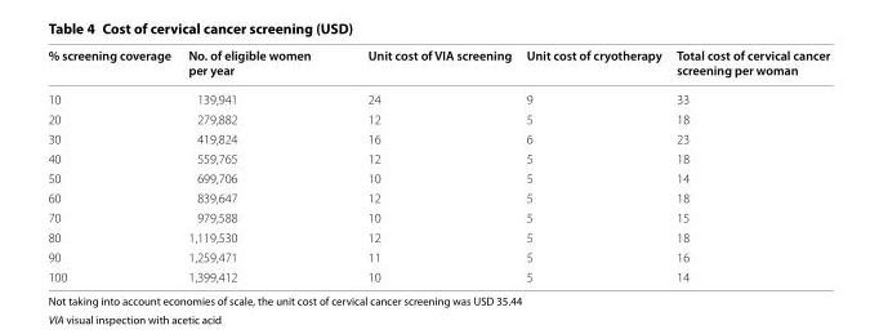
<table><thead><tr><td>% screening coverage</td><td>No. of eligible women per year</td><td>Unit cost of VIA screening</td><td>Unit cost of cryotherapy</td><td>Total cost of cervical cancer screening per woman</td></tr></thead><tbody><tr><td>10</td><td>139,941</td><td>24</td><td>9</td><td>33</td></tr><tr><td>20</td><td>279,882</td><td>12</td><td>5</td><td>18</td></tr><tr><td>30</td><td>419,824</td><td>16</td><td>6</td><td>23</td></tr><tr><td>40</td><td>559,765</td><td>12</td><td>5</td><td>18</td></tr><tr><td>50</td><td>699,706</td><td>10</td><td>5</td><td>14</td></tr><tr><td>60</td><td>839,647</td><td>12</td><td>5</td><td>18</td></tr><tr><td>70</td><td>979,588</td><td>10</td><td>5</td><td>15</td></tr><tr><td>80</td><td>1,119,530</td><td>12</td><td>5</td><td>18</td></tr><tr><td>90</td><td>1,259,471</td><td>11</td><td>5</td><td>16</td></tr><tr><td>100</td><td>1,399,412</td><td>10</td><td>5</td><td>14</td></tr></tbody></table>